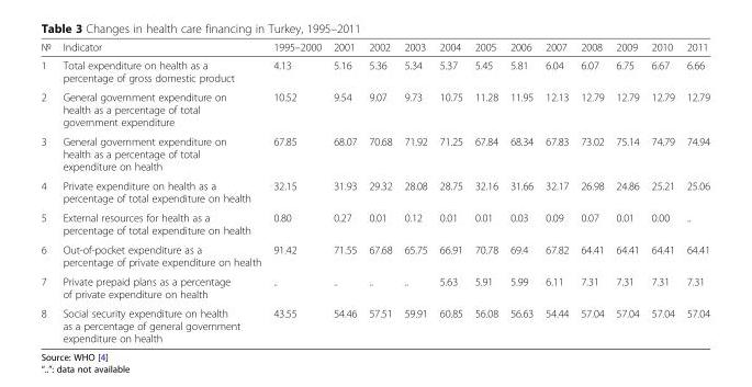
<table><thead><tr><td>№</td><td>Indicator</td><td>1995–2000</td><td>2001</td><td>2002</td><td>2003</td><td>2004</td><td>2005</td><td>2006</td><td>2007</td><td>2008</td><td>2009</td><td>2010</td><td>2011</td></tr></thead><tbody><tr><td>1</td><td>Total expenditure on health as a percentage of gross domestic product</td><td>4.13</td><td>5.16</td><td>5.36</td><td>5.34</td><td>5.37</td><td>5.45</td><td>5.81</td><td>6.04</td><td>6.07</td><td>6.75</td><td>6.67</td><td>6.66</td></tr><tr><td>2</td><td>General government expenditure on health as a percentage of total government expenditure</td><td>10.52</td><td>9.54</td><td>9.07</td><td>9.73</td><td>10.75</td><td>11.28</td><td>11.95</td><td>12.13</td><td>12.79</td><td>12.79</td><td>12.79</td><td>12.79</td></tr><tr><td>3</td><td>General government expenditure on health as a percentage of total expenditure on health</td><td>67.85</td><td>68.07</td><td>70.68</td><td>71.92</td><td>71.25</td><td>67.84</td><td>68.34</td><td>67.83</td><td>73.02</td><td>75.14</td><td>74.79</td><td>74.94</td></tr><tr><td>4</td><td>Private expenditure on health as a percentage of total expenditure on health</td><td>32.15</td><td>31.93</td><td>29.32</td><td>28.08</td><td>28.75</td><td>32.16</td><td>31.66</td><td>32.17</td><td>26.98</td><td>24.86</td><td>25.21</td><td>25.06</td></tr><tr><td>5</td><td>External resources for health as a percentage of total expenditure on health</td><td>0.80</td><td>0.27</td><td>0.01</td><td>0.12</td><td>0.01</td><td>0.01</td><td>0.03</td><td>0.09</td><td>0.07</td><td>0.01</td><td>0.00</td><td>..</td></tr><tr><td>6</td><td>Out-of-pocket expenditure as a percentage of private expenditure on health</td><td>91.42</td><td>71.55</td><td>67.68</td><td>65.75</td><td>66.91</td><td>70.78</td><td>69.4</td><td>67.82</td><td>64.41</td><td>64.41</td><td>64.41</td><td>64.41</td></tr><tr><td>7</td><td>Private prepaid plans as a percentage of private expenditure on health</td><td>..</td><td>..</td><td>..</td><td>..</td><td>5.63</td><td>5.91</td><td>5.99</td><td>6.11</td><td>7.31</td><td>7.31</td><td>7.31</td><td>7.31</td></tr><tr><td>8</td><td>Social security expenditure on health as a percentage of general government expenditure on health</td><td>43.55</td><td>54.46</td><td>57.51</td><td>59.91</td><td>60.85</td><td>56.08</td><td>56.63</td><td>54.44</td><td>57.04</td><td>57.04</td><td>57.04</td><td>57.04</td></tr></tbody></table>